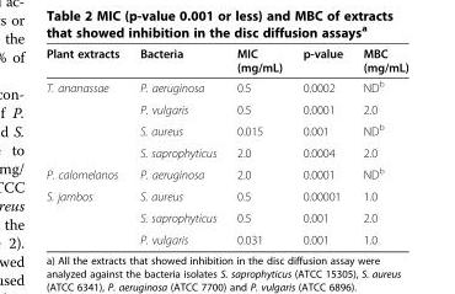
<table><thead><tr><td>Plant extracts</td><td>Bacteria</td><td>MIC (mg/mL)</td><td>p-value</td><td>MBC (mg/mL)</td></tr></thead><tbody><tr><td rowspan="4">T. ananassae</td><td>P. aeruginosa</td><td>0.5</td><td>0.0002</td><td>ND<sup>b</sup></td></tr><tr><td>P. vulgaris</td><td>0.5</td><td>0.0001</td><td>2.0</td></tr><tr><td>S. aureus</td><td>0.015</td><td>0.001</td><td>ND<sup>b</sup></td></tr><tr><td>S. saprophyticus</td><td>2.0</td><td>0.0004</td><td>2.0</td></tr><tr><td>P. calomelanos</td><td>P. aeruginosa</td><td>2.0</td><td>0.0001</td><td>ND<sup>b</sup></td></tr><tr><td rowspan="3">S. jambos</td><td>S. aureus</td><td>0.5</td><td>0.00001</td><td>1.0</td></tr><tr><td>S. saprophyticus</td><td>0.5</td><td>0.001</td><td>2.0</td></tr><tr><td>P. vulgaris</td><td>0.031</td><td>0.001</td><td>1.0</td></tr></tbody></table>